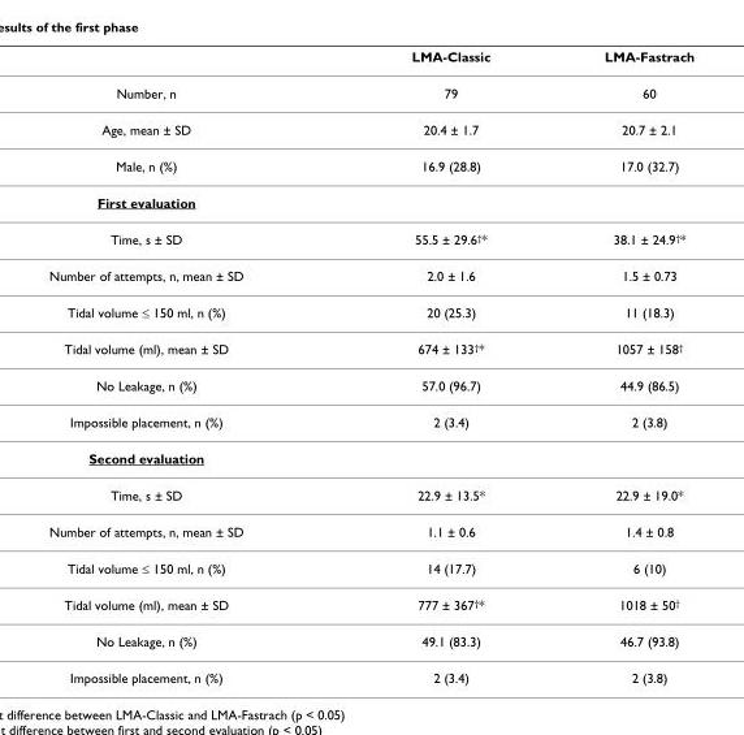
<table><thead><tr><td></td><td>LMA-Classic</td><td>LMA-Fastrach</td></tr></thead><tbody><tr><td>Number, n</td><td>79</td><td>60</td></tr><tr><td>Age, mean ± SD</td><td>20.4 ± 1.7</td><td>20.7 ± 2.1</td></tr><tr><td>Male, n (%)</td><td>16.9 (28.8)</td><td>17.0 (32.7)</td></tr><tr><td colspan="3">First evaluation</td></tr><tr><td>Time, s ± SD</td><td>55.5 ± 29.6<sup>†</sup>*</td><td>38.1 ± 24.9<sup>†</sup>*</td></tr><tr><td>Number of attempts, n, mean ± SD</td><td>2.0 ± 1.6</td><td>1.5 ± 0.73</td></tr><tr><td>Tidal volume ≤ 150 ml, n (%)</td><td>20 (25.3)</td><td>11 (18.3)</td></tr><tr><td>Tidal volume (ml), mean ± SD</td><td>674 ± 133<sup>†</sup>*</td><td>1057 ± 158<sup>†</sup></td></tr><tr><td>No Leakage, n (%)</td><td>57.0 (96.7)</td><td>44.9 (86.5)</td></tr><tr><td>Impossible placement, n (%)</td><td>2 (3.4)</td><td>2 (3.8)</td></tr><tr><td colspan="3">Second evaluation</td></tr><tr><td>Time, s ± SD</td><td>22.9 ± 13.5*</td><td>22.9 ± 19.0*</td></tr><tr><td>Number of attempts, n, mean ± SD</td><td>1.1 ± 0.6</td><td>1.4 ± 0.8</td></tr><tr><td>Tidal volume ≤ 150 ml, n (%)</td><td>14 (17.7)</td><td>6 (10)</td></tr><tr><td>Tidal volume (ml), mean ± SD</td><td>777 ± 367<sup>†</sup>*</td><td>1018 ± 50<sup>†</sup></td></tr><tr><td>No Leakage, n (%)</td><td>49.1 (83.3)</td><td>46.7 (93.8)</td></tr><tr><td>Impossible placement, n (%)</td><td>2 (3.4)</td><td>2 (3.8)</td></tr></tbody></table>